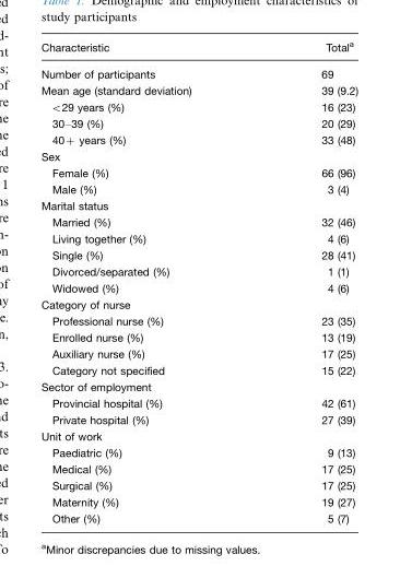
<table><thead><tr><td>Characteristic</td><td>Totala</td></tr></thead><tbody><tr><td>Number of participants</td><td>69</td></tr><tr><td>Mean age (standard deviation)</td><td>39 (9.2)</td></tr><tr><td>&lt;29 years (%)</td><td>16 (23)</td></tr><tr><td>30–39 (%)</td><td>20 (29)</td></tr><tr><td>40+ years (%)</td><td>33 (48)</td></tr><tr><td colspan="2">Sex</td></tr><tr><td>Female (%)</td><td>66 (96)</td></tr><tr><td>Male (%)</td><td>3 (4)</td></tr><tr><td colspan="2">Marital status</td></tr><tr><td>Married (%)</td><td>32 (46)</td></tr><tr><td>Living together (%)</td><td>4 (6)</td></tr><tr><td>Single (%)</td><td>28 (41)</td></tr><tr><td>Divorced/separated (%)</td><td>1 (1)</td></tr><tr><td>Widowed (%)</td><td>4 (6)</td></tr><tr><td colspan="2">Category of nurse</td></tr><tr><td>Professional nurse (%)</td><td>23 (35)</td></tr><tr><td>Enrolled nurse (%)</td><td>13 (19)</td></tr><tr><td>Auxiliary nurse (%)</td><td>17 (25)</td></tr><tr><td>Category not specified</td><td>15 (22)</td></tr><tr><td colspan="2">Sector of employment</td></tr><tr><td>Provincial hospital (%)</td><td>42 (61)</td></tr><tr><td>Private hospital (%)</td><td>27 (39)</td></tr><tr><td colspan="2">Unit of work</td></tr><tr><td>Paediatric (%)</td><td>9 (13)</td></tr><tr><td>Medical (%)</td><td>17 (25)</td></tr><tr><td>Surgical (%)</td><td>17 (25)</td></tr><tr><td>Maternity (%)</td><td>19 (27)</td></tr><tr><td>Other (%)</td><td>5 (7)</td></tr></tbody></table>